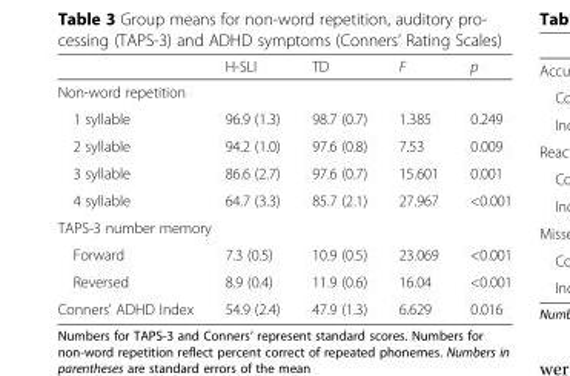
<table><thead><tr><td></td><td>H-SLI</td><td>TD</td><td>F</td><td>p</td></tr></thead><tbody><tr><td colspan="5">Non-word repetition</td></tr><tr><td>1 syllable</td><td>96.9 (1.3)</td><td>98.7 (0.7)</td><td>1.385</td><td>0.249</td></tr><tr><td>2 syllable</td><td>94.2 (1.0)</td><td>97.6 (0.8)</td><td>7.53</td><td>0.009</td></tr><tr><td>3 syllable</td><td>86.6 (2.7)</td><td>97.6 (0.7)</td><td>15.601</td><td>0.001</td></tr><tr><td>4 syllable</td><td>64.7 (3.3)</td><td>85.7 (2.1)</td><td>27.967</td><td>&lt;0.001</td></tr><tr><td colspan="5">TAPS-3 number memory</td></tr><tr><td>Forward</td><td>7.3 (0.5)</td><td>10.9 (0.5)</td><td>23.069</td><td>&lt;0.001</td></tr><tr><td>Reversed</td><td>8.9 (0.4)</td><td>11.9 (0.6)</td><td>16.04</td><td>&lt;0.001</td></tr><tr><td>Conners’ ADHD Index</td><td>54.9 (2.4)</td><td>47.9 (1.3)</td><td>6.629</td><td>0.016</td></tr></tbody></table>